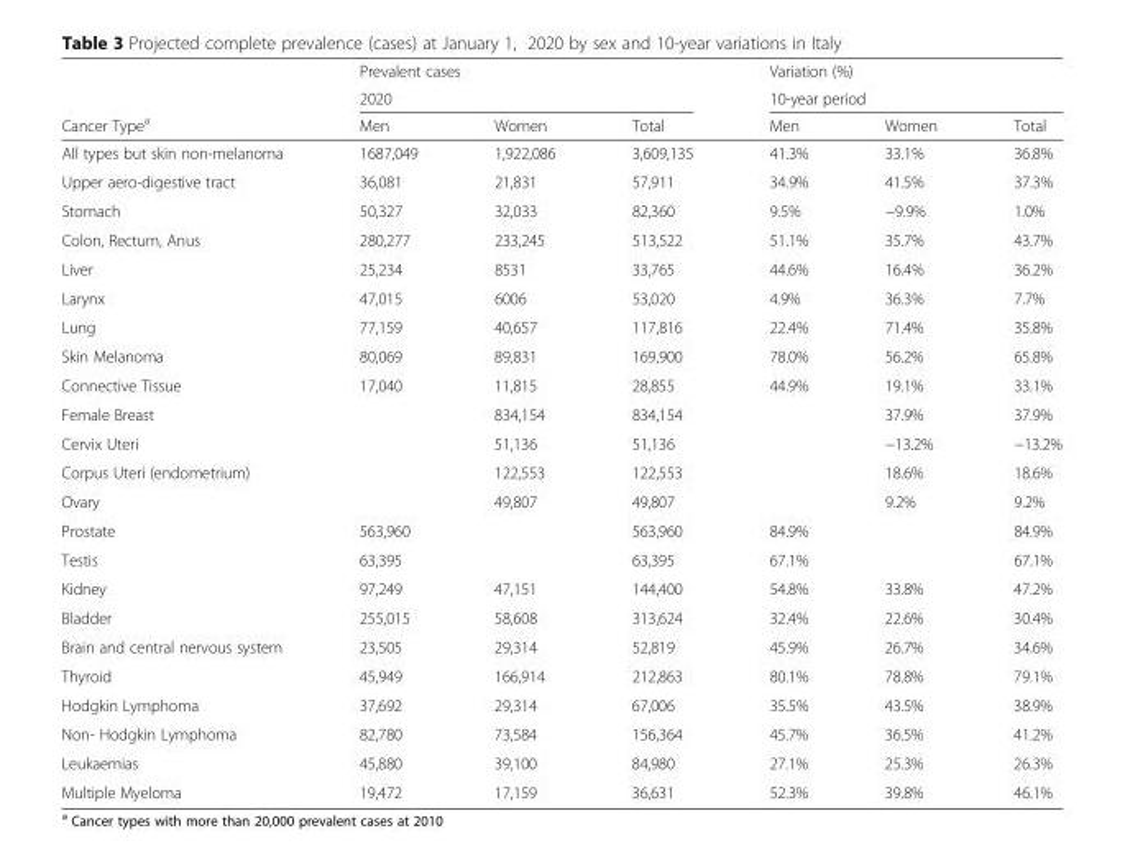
<table><thead><tr><td rowspan="3">Cancer Type<sup>a</sup></td><td rowspan="2" colspan="3">Prevalent cases 2020</td><td rowspan="2" colspan="3">Variation (%) 10-year period</td></tr><tr></tr><tr><td>Men</td><td>Women</td><td>Total</td><td>Men</td><td>Women</td><td>Total</td></tr></thead><tbody><tr><td>All types but skin non-melanoma</td><td>1687,049</td><td>1,922,086</td><td>3,609,135</td><td>41.3%</td><td>33.1%</td><td>36.8%</td></tr><tr><td>Upper aero-digestive tract</td><td>36,081</td><td>21,831</td><td>57,911</td><td>34.9%</td><td>41.5%</td><td>37.3%</td></tr><tr><td>Stomach</td><td>50,327</td><td>32,033</td><td>82,360</td><td>9.5%</td><td>−9.9%</td><td>1.0%</td></tr><tr><td>Colon, Rectum, Anus</td><td>280,277</td><td>233,245</td><td>513,522</td><td>51.1%</td><td>35.7%</td><td>43.7%</td></tr><tr><td>Liver</td><td>25,234</td><td>8531</td><td>33,765</td><td>44.6%</td><td>16.4%</td><td>36.2%</td></tr><tr><td>Larynx</td><td>47,015</td><td>6006</td><td>53,020</td><td>4.9%</td><td>36.3%</td><td>7.7%</td></tr><tr><td>Lung</td><td>77,159</td><td>40,657</td><td>117,816</td><td>22.4%</td><td>71.4%</td><td>35.8%</td></tr><tr><td>Skin Melanoma</td><td>80,069</td><td>89,831</td><td>169,900</td><td>78.0%</td><td>56.2%</td><td>65.8%</td></tr><tr><td>Connective Tissue</td><td>17,040</td><td>11,815</td><td>28,855</td><td>44.9%</td><td>19.1%</td><td>33.1%</td></tr><tr><td>Female Breast</td><td></td><td>834,154</td><td>834,154</td><td></td><td>37.9%</td><td>37.9%</td></tr><tr><td>Cervix Uteri</td><td></td><td>51,136</td><td>51,136</td><td></td><td>−13.2%</td><td>−13.2%</td></tr><tr><td>Corpus Uteri (endometrium)</td><td></td><td>122,553</td><td>122,553</td><td></td><td>18.6%</td><td>18.6%</td></tr><tr><td>Ovary</td><td></td><td>49,807</td><td>49,807</td><td></td><td>9.2%</td><td>9.2%</td></tr><tr><td>Prostate</td><td>563,960</td><td></td><td>563,960</td><td>84.9%</td><td></td><td>84.9%</td></tr><tr><td>Testis</td><td>63,395</td><td></td><td>63,395</td><td>67.1%</td><td></td><td>67.1%</td></tr><tr><td>Kidney</td><td>97,249</td><td>47,151</td><td>144,400</td><td>54.8%</td><td>33.8%</td><td>47.2%</td></tr><tr><td>Bladder</td><td>255,015</td><td>58,608</td><td>313,624</td><td>32.4%</td><td>22.6%</td><td>30.4%</td></tr><tr><td>Brain and central nervous system</td><td>23,505</td><td>29,314</td><td>52,819</td><td>45.9%</td><td>26.7%</td><td>34.6%</td></tr><tr><td>Thyroid</td><td>45,949</td><td>166,914</td><td>212,863</td><td>80.1%</td><td>78.8%</td><td>79.1%</td></tr><tr><td>Hodgkin Lymphoma</td><td>37,692</td><td>29,314</td><td>67,006</td><td>35.5%</td><td>43.5%</td><td>38.9%</td></tr><tr><td>Non- Hodgkin Lymphoma</td><td>82,780</td><td>73,584</td><td>156,364</td><td>45.7%</td><td>36.5%</td><td>41.2%</td></tr><tr><td>Leukaemias</td><td>45,880</td><td>39,100</td><td>84,980</td><td>27.1%</td><td>25.3%</td><td>26.3%</td></tr><tr><td>Multiple Myeloma</td><td>19,472</td><td>17,159</td><td>36,631</td><td>52.3%</td><td>39.8%</td><td>46.1%</td></tr></tbody></table>